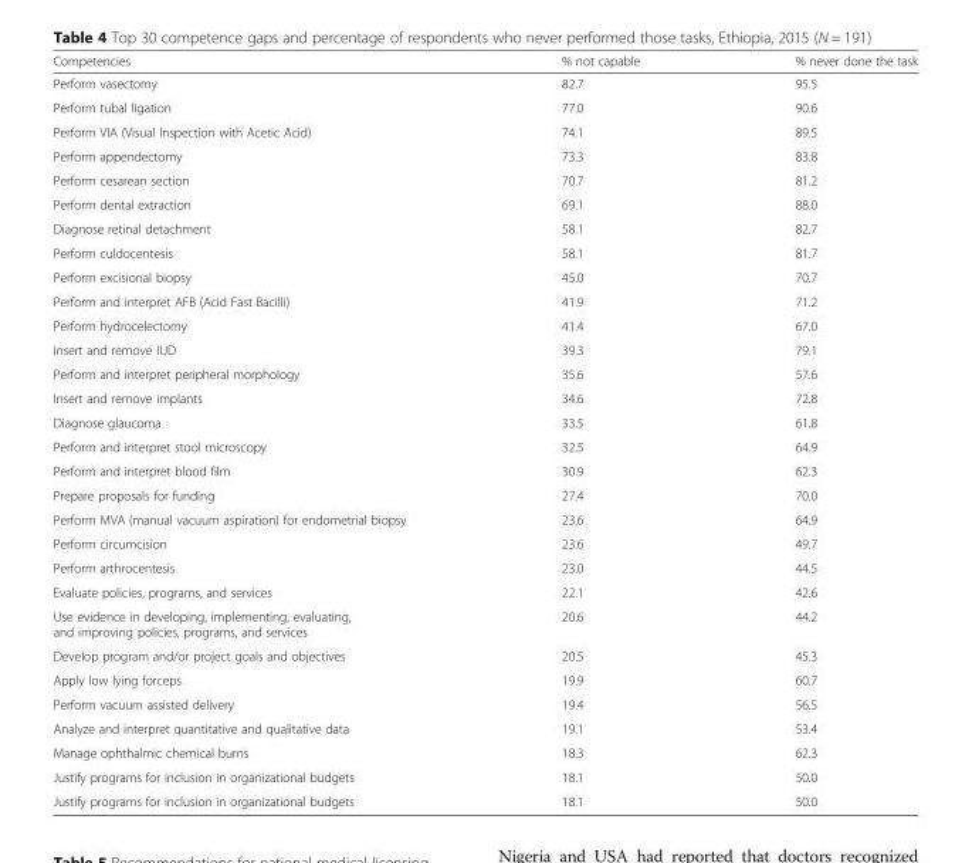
<table><thead><tr><td>Competencies</td><td>% not capable</td><td>% never done the task</td></tr></thead><tbody><tr><td>Perform vasectomy</td><td>82.7</td><td>95.5</td></tr><tr><td>Perform tubal ligation</td><td>77.0</td><td>90.6</td></tr><tr><td>Perform VIA (Visual Inspection with Acetic Acid)</td><td>74.1</td><td>89.5</td></tr><tr><td>Perform appendectomy</td><td>73.3</td><td>83.8</td></tr><tr><td>Perform cesarean section</td><td>70.7</td><td>81.2</td></tr><tr><td>Perform dental extraction</td><td>69.1</td><td>88.0</td></tr><tr><td>Diagnose retinal detachment</td><td>58.1</td><td>82.7</td></tr><tr><td>Perform culdocentesis</td><td>58.1</td><td>81.7</td></tr><tr><td>Perform excisional biopsy</td><td>45.0</td><td>70.7</td></tr><tr><td>Perform and interpret AFB (Acid Fast Bacilli)</td><td>41.9</td><td>71.2</td></tr><tr><td>Perform hydrocelectomy</td><td>41.4</td><td>67.0</td></tr><tr><td>Insert and remove IUD</td><td>39.3</td><td>79.1</td></tr><tr><td>Perform and interpret peripheral morphology</td><td>35.6</td><td>57.6</td></tr><tr><td>Insert and remove implants</td><td>34.6</td><td>72.8</td></tr><tr><td>Diagnose glaucoma</td><td>33.5</td><td>61.8</td></tr><tr><td>Perform and interpret stool microscopy</td><td>32.5</td><td>64.9</td></tr><tr><td>Perform and interpret blood film</td><td>30.9</td><td>62.3</td></tr><tr><td>Prepare proposals for funding</td><td>27.4</td><td>70.0</td></tr><tr><td>Perform MVA (manual vacuum aspiration) for endometrial biopsy</td><td>23.6</td><td>64.9</td></tr><tr><td>Perform circumcision</td><td>23.6</td><td>49.7</td></tr><tr><td>Perform arthrocentesis</td><td>23.0</td><td>44.5</td></tr><tr><td>Evaluate policies, programs, and services</td><td>22.1</td><td>42.6</td></tr><tr><td>Use evidence in developing, implementing, evaluating, and improving policies, programs, and services</td><td>20.6</td><td>44.2</td></tr><tr><td>Develop program and/or project goals and objectives</td><td>20.5</td><td>45.3</td></tr><tr><td>Apply low lying forceps</td><td>19.9</td><td>60.7</td></tr><tr><td>Perform vacuum assisted delivery</td><td>19.4</td><td>56.5</td></tr><tr><td>Analyze and interpret quantitative and qualitative data</td><td>19.1</td><td>53.4</td></tr><tr><td>Manage ophthalmic chemical burns</td><td>18.3</td><td>62.3</td></tr><tr><td>Justify programs for inclusion in organizational budgets</td><td>18.1</td><td>50.0</td></tr><tr><td>Justify programs for inclusion in organizational budgets</td><td>18.1</td><td>50.0</td></tr></tbody></table>